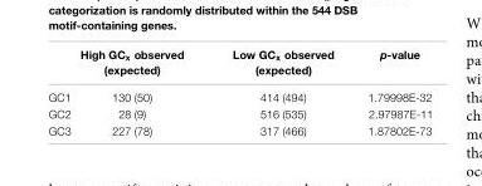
<table><thead><tr><td></td><td>High GC<sub>x</sub> observed (expected)</td><td>Low GC<sub>x</sub> observed (expected)</td><td>p-value</td></tr></thead><tbody><tr><td>GC1</td><td>130 (50)</td><td>414 (494)</td><td>1.79998E-32</td></tr><tr><td>GC2</td><td>28 (9)</td><td>516 (535)</td><td>2.97987E-11</td></tr><tr><td>GC3</td><td>227 (78)</td><td>317 (466)</td><td>1.87802E-73</td></tr></tbody></table>